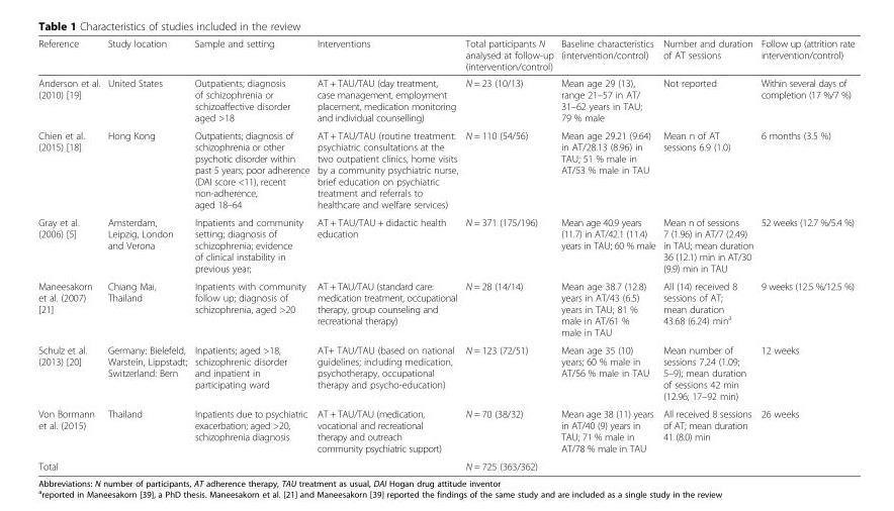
<table><thead><tr><td>Reference</td><td>Study location</td><td>Sample and setting</td><td>Interventions</td><td>Total participants N analysed at follow-up (intervention/control)</td><td>Baseline characteristics (intervention/control)</td><td>Number and duration of AT sessions</td><td>Follow up (attrition rate intervention/control)</td></tr></thead><tbody><tr><td>Anderson et al. (2010) [19]</td><td>United States</td><td>Outpatients; diagnosis of schizophrenia or schizoaffective disorder aged &gt;18</td><td>AT + TAU/TAU (day treatment, case management, employment placement, medication monitoring and individual counselling)</td><td>N = 23 (10/13)</td><td>Mean age 29 (13), range 21–57 in AT/ 31–62 years in TAU; 79 % male</td><td>Not reported</td><td>Within several days of completion (17 %/7 %)</td></tr><tr><td>Chien et al. (2015) [18]</td><td>Hong Kong</td><td>Outpatients; diagnosis of schizophrenia or other psychotic disorder within past 5 years; poor adherence (DAI score &lt;11), recent non-adherence, aged 18–64</td><td>AT + TAU/TAU (routine treatment: psychiatric consultations at the two outpatient clinics, home visits by a community psychiatric nurse, brief education on psychiatric treatment and referrals to healthcare and welfare services)</td><td>N = 110 (54/56)</td><td>Mean age 29.21 (9.64) in AT/28.13 (8.96) in TAU; 51 % male in AT/53 % male in TAU</td><td>Mean n of AT sessions 6.9 (1.0)</td><td>6 months (3.5 %)</td></tr><tr><td>Gray et al. (2006) [5]</td><td>Amsterdam, Leipzig, London and Verona</td><td>Inpatients and community setting; diagnosis of schizophrenia; evidence of clinical instability in previous year;</td><td>AT + TAU/TAU + didactic health education</td><td>N = 371 (175/196)</td><td>Mean age 40.9 years (11.7) in AT/42.1 (11.4) years in TAU; 60 % male</td><td>Mean n of sessions 7 (1.96) in AT/7 (2.49) in TAU; mean duration 36 (12.1) min in AT/30 (9.9) min in TAU</td><td>52 weeks (12.7 %/5.4 %)</td></tr><tr><td>Maneesakorn et al. (2007) [21]</td><td>Chiang Mai, Thailand</td><td>Inpatients with community follow up; diagnosis of schizophrenia, aged &gt;20</td><td>AT + TAU/TAU (standard care: medication treatment, occupational therapy, group counseling and recreational therapy)</td><td>N = 28 (14/14)</td><td>Mean age 38.7 (12.8) years in AT/43 (6.5) years in TAU; 81 % male in AT/61 % male in TAU</td><td>All (14) received 8 sessions of AT; mean duration 43.68 (6.24) min<sup>a</sup></td><td>9 weeks (12.5 %/12.5 %)</td></tr><tr><td>Schulz et al. (2013) [20]</td><td>Germany: Bielefeld, Warstein, Lippstadt; Switzerland: Bern</td><td>Inpatients; aged &gt;18, schizophrenic disorder and inpatient in participating ward</td><td>AT+ TAU/TAU (based on national guidelines; including medication, psychotherapy, occupational therapy and psycho-education)</td><td>N = 123 (72/51)</td><td>Mean age 35 (10) years; 60 % male in AT/56 % male in TAU</td><td>Mean number of sessions 7.24 (1.09; 5–9); mean duration of sessions 42 min (12.96; 17–92 min)</td><td>12 weeks</td></tr><tr><td>Von Bormann et al. (2015)</td><td>Thailand</td><td>Inpatients due to psychiatric exacerbation; aged &gt;20, schizophrenia diagnosis</td><td>AT + TAU/TAU (medication, vocational and recreational therapy and outreach community psychiatric support)</td><td>N = 70 (38/32)</td><td>Mean age 38 (11) years in AT/40 (9) years in TAU; 71 % male in AT/78 % male in TAU</td><td>All received 8 sessions of AT; mean duration 41 (8.0) min</td><td>26 weeks</td></tr><tr><td>Total</td><td></td><td></td><td></td><td>N = 725 (363/362)</td><td></td><td></td><td></td></tr></tbody></table>